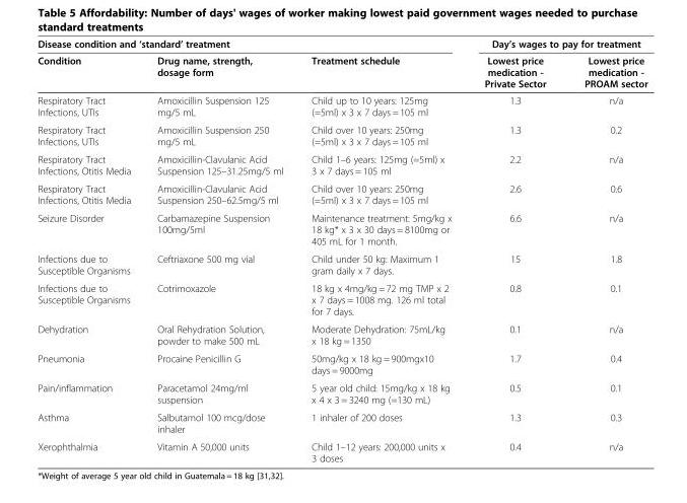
<table><thead><tr><td colspan="3">Disease condition and ‘standard’ treatment</td><td colspan="2">Day’s wages to pay for treatment</td></tr><tr><td>Condition</td><td>Drug name, strength, dosage form</td><td>Treatment schedule</td><td>Lowest price medication - Private Sector</td><td>Lowest price medication - PROAM sector</td></tr></thead><tbody><tr><td>Respiratory Tract Infections, UTIs</td><td>Amoxicillin Suspension 125 mg/5 mL</td><td>Child up to 10 years: 125mg (=5ml) x 3 x 7 days = 105 ml</td><td>1.3</td><td>n/a</td></tr><tr><td>Respiratory Tract Infections, UTIs</td><td>Amoxicillin Suspension 250 mg/5 mL</td><td>Child over 10 years: 250mg (=5ml) x 3 x 7 days = 105 ml</td><td>1.3</td><td>0.2</td></tr><tr><td>Respiratory Tract Infections, Otitis Media</td><td>Amoxicillin-Clavulanic Acid Suspension 125–31.25mg/5 ml</td><td>Child 1–6 years: 125mg (=5ml) x 3 x 7 days = 105 ml</td><td>2.2</td><td>n/a</td></tr><tr><td>Respiratory Tract Infections, Otitis Media</td><td>Amoxicillin-Clavulanic Acid Suspension 250–62.5mg/5 ml</td><td>Child over 10 years: 250mg (=5ml) x 3 x 7 days = 105 ml</td><td>2.6</td><td>0.6</td></tr><tr><td>Seizure Disorder</td><td>Carbamazepine Suspension 100mg/5ml</td><td>Maintenance treatment: 5mg/kg x 18 kg* x 3 x 30 days = 8100mg or 405 mL for 1 month.</td><td>6.6</td><td>n/a</td></tr><tr><td>Infections due to Susceptible Organisms</td><td>Ceftriaxone 500 mg vial</td><td>Child under 50 kg: Maximum 1 gram daily x 7 days.</td><td>15</td><td>1.8</td></tr><tr><td>Infections due to Susceptible Organisms</td><td>Cotrimoxazole</td><td>18 kg x 4mg/kg = 72 mg TMP x 2 x 7 days = 1008 mg. 126 ml total for 7 days.</td><td>0.8</td><td>0.1</td></tr><tr><td>Dehydration</td><td>Oral Rehydration Solution, powder to make 500 mL</td><td>Moderate Dehydration: 75mL/kg x 18 kg = 1350</td><td>0.1</td><td>n/a</td></tr><tr><td>Pneumonia</td><td>Procaine Penicillin G</td><td>50mg/kg x 18 kg = 900mgx10 days = 9000mg</td><td>1.7</td><td>0.4</td></tr><tr><td>Pain/inflammation</td><td>Paracetamol 24mg/ml suspension</td><td>5 year old child: 15mg/kg x 18 kg x 4 x 3 = 3240 mg (=130 mL)</td><td>0.5</td><td>0.1</td></tr><tr><td>Asthma</td><td>Salbutamol 100 mcg/dose inhaler</td><td>1 inhaler of 200 doses</td><td>1.3</td><td>0.3</td></tr><tr><td>Xerophthalmia</td><td>Vitamin A 50,000 units</td><td>Child 1–12 years: 200,000 units x 3 doses</td><td>0.4</td><td>n/a</td></tr></tbody></table>